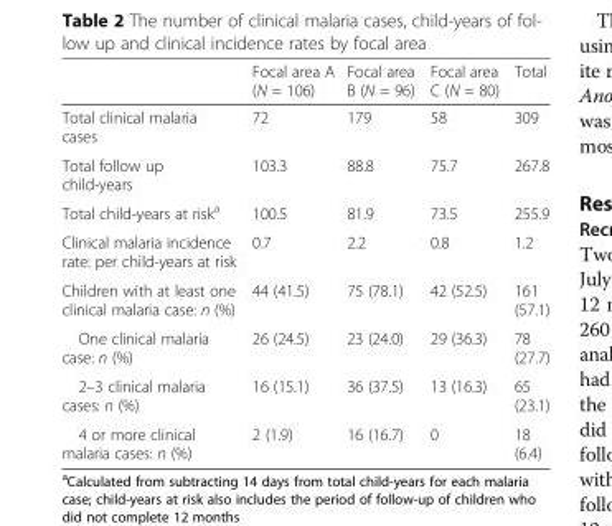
<table><thead><tr><td></td><td>Focal area A (N = 106)</td><td>Focal area B (N = 96)</td><td>Focal area C (N = 80)</td><td>Total</td></tr></thead><tbody><tr><td>Total clinical malaria cases</td><td>72</td><td>179</td><td>58</td><td>309</td></tr><tr><td>Total follow up child-years</td><td>103.3</td><td>88.8</td><td>75.7</td><td>267.8</td></tr><tr><td>Total child-years at risk<sup>a</sup></td><td>100.5</td><td>81.9</td><td>73.5</td><td>255.9</td></tr><tr><td>Clinical malaria incidence rate: per child-years at risk</td><td>0.7</td><td>2.2</td><td>0.8</td><td>1.2</td></tr><tr><td>Children with at least one clinical malaria case: n (%)</td><td>44 (41.5)</td><td>75 (78.1)</td><td>42 (52.5)</td><td>161 (57.1)</td></tr><tr><td>One clinical malaria case: n (%)</td><td>26 (24.5)</td><td>23 (24.0)</td><td>29 (36.3)</td><td>78 (27.7)</td></tr><tr><td>2–3 clinical malaria cases: n (%)</td><td>16 (15.1)</td><td>36 (37.5)</td><td>13 (16.3)</td><td>65 (23.1)</td></tr><tr><td>4 or more clinical malaria cases: n (%)</td><td>2 (1.9)</td><td>16 (16.7)</td><td>0</td><td>18 (6.4)</td></tr></tbody></table>